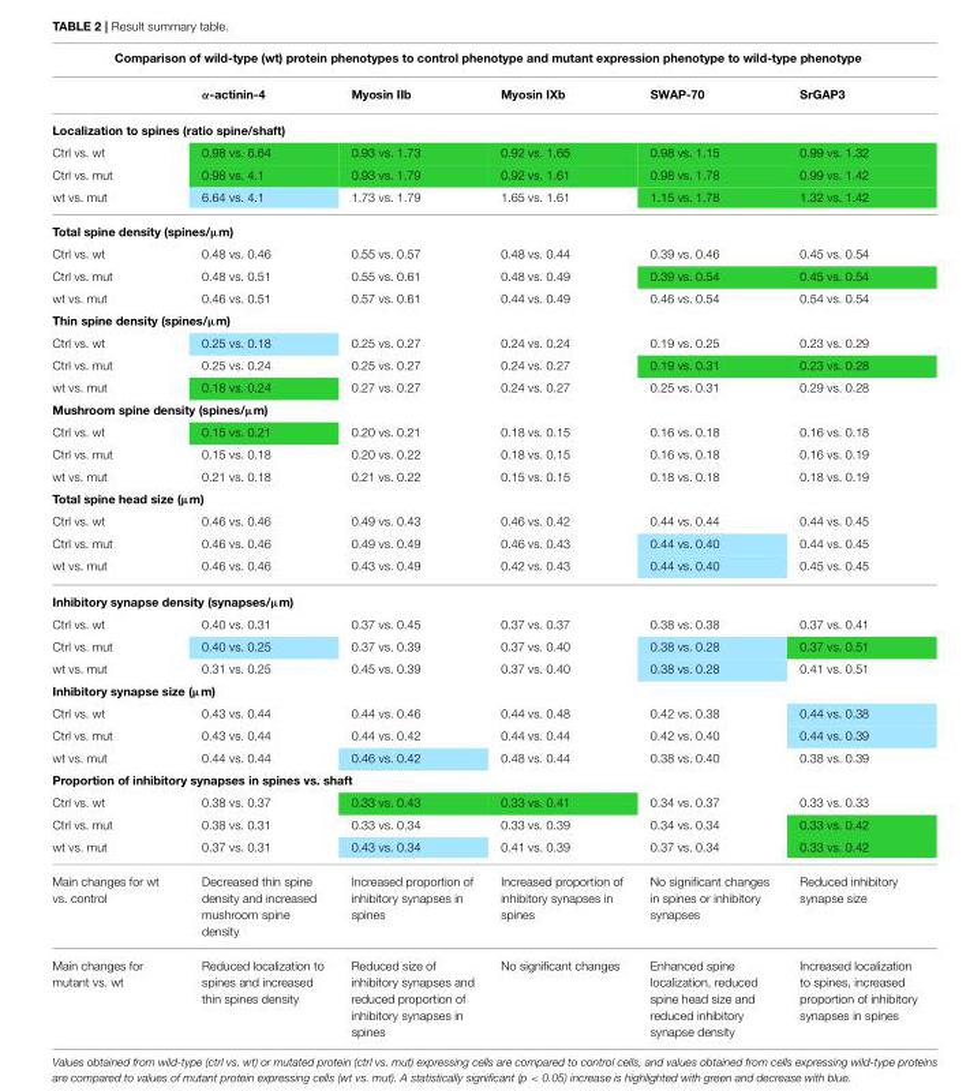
<table><thead><tr><td colspan="6">Comparison of wild-type (wt) protein phenotypes to control phenotype and mutant expression phenotype to wild-type phenotype</td></tr><tr><td></td><td>α-actinin-4</td><td>Myosin IIb</td><td>Myosin IXb</td><td>SWAP-70</td><td>SrGAP3</td></tr></thead><tbody><tr><td colspan="6">Localization to spines (ratio spine/shaft)</td></tr><tr><td>Ctrl vs. wt</td><td>0.98 vs. 6.64</td><td>0.93 vs. 1.73</td><td>0.92 vs. 1.65</td><td>0.98 vs. 1.15</td><td>0.99 vs. 1.32</td></tr><tr><td>Ctrl vs. mut</td><td>0.98 vs. 4.1</td><td>0.93 vs. 1.79</td><td>0.92 vs. 1.61</td><td>0.98 vs. 1.78</td><td>0.99 vs. 1.42</td></tr><tr><td>wt vs. mut</td><td>6.64 vs. 4.1</td><td>1.73 vs. 1.79</td><td>1.65 vs. 1.61</td><td>1.15 vs. 1.78</td><td>1.32 vs. 1.42</td></tr><tr><td colspan="6">Total spine density (spines/µm)</td></tr><tr><td>Ctrl vs. wt</td><td>0.48 vs. 0.46</td><td>0.55 vs. 0.57</td><td>0.48 vs. 0.44</td><td>0.39 vs. 0.46</td><td>0.45 vs. 0.54</td></tr><tr><td>Ctrl vs. mut</td><td>0.48 vs. 0.51</td><td>0.55 vs. 0.61</td><td>0.48 vs. 0.49</td><td>0.39 vs. 0.54</td><td>0.45 vs. 0.54</td></tr><tr><td>wt vs. mut</td><td>0.46 vs. 0.51</td><td>0.57 vs. 0.61</td><td>0.44 vs. 0.49</td><td>0.46 vs. 0.54</td><td>0.54 vs. 0.54</td></tr><tr><td colspan="6">Thin spine density (spines/µm)</td></tr><tr><td>Ctrl vs. wt</td><td>0.25 vs. 0.18</td><td>0.25 vs. 0.27</td><td>0.24 vs. 0.24</td><td>0.19 vs. 0.25</td><td>0.23 vs. 0.29</td></tr><tr><td>Ctrl vs. mut</td><td>0.25 vs. 0.24</td><td>0.25 vs. 0.27</td><td>0.24 vs. 0.27</td><td>0.19 vs. 0.31</td><td>0.23 vs. 0.28</td></tr><tr><td>wt vs. mut</td><td>0.18 vs. 0.24</td><td>0.27 vs. 0.27</td><td>0.24 vs. 0.27</td><td>0.25 vs. 0.31</td><td>0.29 vs. 0.28</td></tr><tr><td colspan="6">Mushroom spine density (spines/µm)</td></tr><tr><td>Ctrl vs. wt</td><td>0.15 vs. 0.21</td><td>0.20 vs. 0.21</td><td>0.18 vs. 0.15</td><td>0.16 vs. 0.18</td><td>0.16 vs. 0.18</td></tr><tr><td>Ctrl vs. mut</td><td>0.15 vs. 0.18</td><td>0.20 vs. 0.22</td><td>0.18 vs. 0.15</td><td>0.16 vs. 0.18</td><td>0.16 vs. 0.19</td></tr><tr><td>wt vs. mut</td><td>0.21 vs. 0.18</td><td>0.21 vs. 0.22</td><td>0.15 vs. 0.15</td><td>0.18 vs. 0.18</td><td>0.18 vs. 0.19</td></tr><tr><td colspan="6">Total spine head size (µm)</td></tr><tr><td>Ctrl vs. wt</td><td>0.46 vs. 0.46</td><td>0.49 vs. 0.43</td><td>0.46 vs. 0.42</td><td>0.44 vs. 0.44</td><td>0.44 vs. 0.45</td></tr><tr><td>Ctrl vs. mut</td><td>0.46 vs. 0.46</td><td>0.49 vs. 0.49</td><td>0.46 vs. 0.43</td><td>0.44 vs. 0.40</td><td>0.44 vs. 0.45</td></tr><tr><td>wt vs. mut</td><td>0.46 vs. 0.46</td><td>0.43 vs. 0.49</td><td>0.42 vs. 0.43</td><td>0.44 vs. 0.40</td><td>0.45 vs. 0.45</td></tr><tr><td colspan="6">Inhibitory synapse density (synapses/µm)</td></tr><tr><td>Ctrl vs. wt</td><td>0.40 vs. 0.31</td><td>0.37 vs. 0.45</td><td>0.37 vs. 0.37</td><td>0.38 vs. 0.38</td><td>0.37 vs. 0.41</td></tr><tr><td>Ctrl vs. mut</td><td>0.40 vs. 0.25</td><td>0.37 vs. 0.39</td><td>0.37 vs. 0.40</td><td>0.38 vs. 0.28</td><td>0.37 vs. 0.51</td></tr><tr><td>wt vs. mut</td><td>0.31 vs. 0.25</td><td>0.45 vs. 0.39</td><td>0.37 vs. 0.40</td><td>0.38 vs. 0.28</td><td>0.41 vs. 0.51</td></tr><tr><td colspan="6">Inhibitory synapse size (µm)</td></tr><tr><td>Ctrl vs. wt</td><td>0.43 vs. 0.44</td><td>0.44 vs. 0.46</td><td>0.44 vs. 0.48</td><td>0.42 vs. 0.38</td><td>0.44 vs. 0.38</td></tr><tr><td>Ctrl vs. mut</td><td>0.43 vs. 0.44</td><td>0.44 vs. 0.42</td><td>0.44 vs. 0.44</td><td>0.42 vs. 0.40</td><td>0.44 vs. 0.39</td></tr><tr><td>wt vs. mut</td><td>0.44 vs. 0.44</td><td>0.46 vs. 0.42</td><td>0.48 vs. 0.44</td><td>0.38 vs. 0.40</td><td>0.38 vs. 0.39</td></tr><tr><td colspan="6">Proportion of inhibitory synapses in spines vs. shaft</td></tr><tr><td>Ctrl vs. wt</td><td>0.38 vs. 0.37</td><td>0.33 vs. 0.43</td><td>0.33 vs. 0.41</td><td>0.34 vs. 0.37</td><td>0.33 vs. 0.33</td></tr><tr><td>Ctrl vs. mut</td><td>0.38 vs. 0.31</td><td>0.33 vs. 0.34</td><td>0.33 vs. 0.39</td><td>0.34 vs. 0.34</td><td>0.33 vs. 0.42</td></tr><tr><td>wt vs. mut</td><td>0.37 vs. 0.31</td><td>0.43 vs. 0.34</td><td>0.41 vs. 0.39</td><td>0.37 vs. 0.34</td><td>0.33 vs. 0.42</td></tr><tr><td>Main changes for wt vs. control</td><td>Decreased thin spine density and increased mushroom spine density</td><td>Increased proportion of inhibitory synapses in spines</td><td>Increased proportion of inhibitory synapses in spines</td><td>No significant changes in spines or inhibitory synapses</td><td>Reduced inhibitory synapse size</td></tr><tr><td>Main changes for mutant vs. wt</td><td>Reduced localization to spines and increased thin spines density</td><td>Reduced size of inhibitory synapses and reduced proportion of inhibitory synapses in spines</td><td>No significant changes</td><td>Enhanced spine localization, reduced spine head size and reduced inhibitory synapse density</td><td>Increased localization to spines, increased proportion of inhibitory synapses in spines</td></tr></tbody></table>